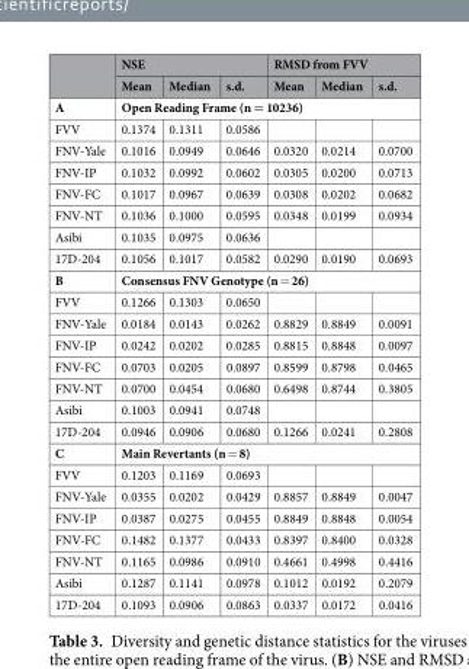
<table><thead><tr><td rowspan="2"></td><td colspan="3">NSE</td><td colspan="3">RMSD from FVV</td></tr><tr><td>Mean</td><td>Median</td><td>s.d.</td><td>Mean</td><td>Median</td><td>s.d.</td></tr></thead><tbody><tr><td>A</td><td colspan="6">Open Reading Frame (n = 10236)</td></tr><tr><td>FVV</td><td>0.1374</td><td>0.1311</td><td>0.0586</td><td></td><td></td><td></td></tr><tr><td>FNV-Yale</td><td>0.1016</td><td>0.0949</td><td>0.0646</td><td>0.0320</td><td>0.0214</td><td>0.0700</td></tr><tr><td>FNV-IP</td><td>0.1032</td><td>0.0992</td><td>0.0602</td><td>0.0305</td><td>0.0200</td><td>0.0713</td></tr><tr><td>FNV-FC</td><td>0.1017</td><td>0.0967</td><td>0.0639</td><td>0.0308</td><td>0.0202</td><td>0.0682</td></tr><tr><td>FNV-NT</td><td>0.1036</td><td>0.1000</td><td>0.0595</td><td>0.0348</td><td>0.0199</td><td>0.0934</td></tr><tr><td>Asibi</td><td>0.1035</td><td>0.0975</td><td>0.0636</td><td></td><td></td><td></td></tr><tr><td>17D-204</td><td>0.1056</td><td>0.1017</td><td>0.0582</td><td>0.0290</td><td>0.0190</td><td>0.0693</td></tr><tr><td>B</td><td colspan="6">Consensus FNV Genotype (n = 26)</td></tr><tr><td>FVV</td><td>0.1266</td><td>0.1303</td><td>0.0650</td><td></td><td></td><td></td></tr><tr><td>FNV-Yale</td><td>0.0184</td><td>0.0143</td><td>0.0262</td><td>0.8829</td><td>0.8849</td><td>0.0091</td></tr><tr><td>FNV-IP</td><td>0.0242</td><td>0.0202</td><td>0.0285</td><td>0.8815</td><td>0.8848</td><td>0.0097</td></tr><tr><td>FNV-FC</td><td>0.0703</td><td>0.0205</td><td>0.0897</td><td>0.8599</td><td>0.8798</td><td>0.0465</td></tr><tr><td>FNV-NT</td><td>0.0700</td><td>0.0454</td><td>0.0680</td><td>0.6498</td><td>0.8744</td><td>0.3805</td></tr><tr><td>Asibi</td><td>0.1003</td><td>0.0941</td><td>0.0748</td><td></td><td></td><td></td></tr><tr><td>17D-204</td><td>0.0946</td><td>0.0906</td><td>0.0680</td><td>0.1266</td><td>0.0241</td><td>0.2808</td></tr><tr><td>C</td><td colspan="6">Main Revertants (n = 8)</td></tr><tr><td>FVV</td><td>0.1203</td><td>0.1169</td><td>0.0693</td><td></td><td></td><td></td></tr><tr><td>FNV-Yale</td><td>0.0355</td><td>0.0202</td><td>0.0429</td><td>0.8857</td><td>0.8849</td><td>0.0047</td></tr><tr><td>FNV-IP</td><td>0.0387</td><td>0.0275</td><td>0.0455</td><td>0.8849</td><td>0.8848</td><td>0.0054</td></tr><tr><td>FNV-FC</td><td>0.1482</td><td>0.1377</td><td>0.0433</td><td>0.8397</td><td>0.8400</td><td>0.0328</td></tr><tr><td>FNV-NT</td><td>0.1165</td><td>0.0986</td><td>0.0910</td><td>0.4661</td><td>0.4998</td><td>0.4416</td></tr><tr><td>Asibi</td><td>0.1287</td><td>0.1141</td><td>0.0978</td><td>0.1012</td><td>0.0192</td><td>0.2079</td></tr><tr><td>17D-204</td><td>0.1093</td><td>0.0906</td><td>0.0863</td><td>0.0337</td><td>0.0172</td><td>0.0416</td></tr></tbody></table>